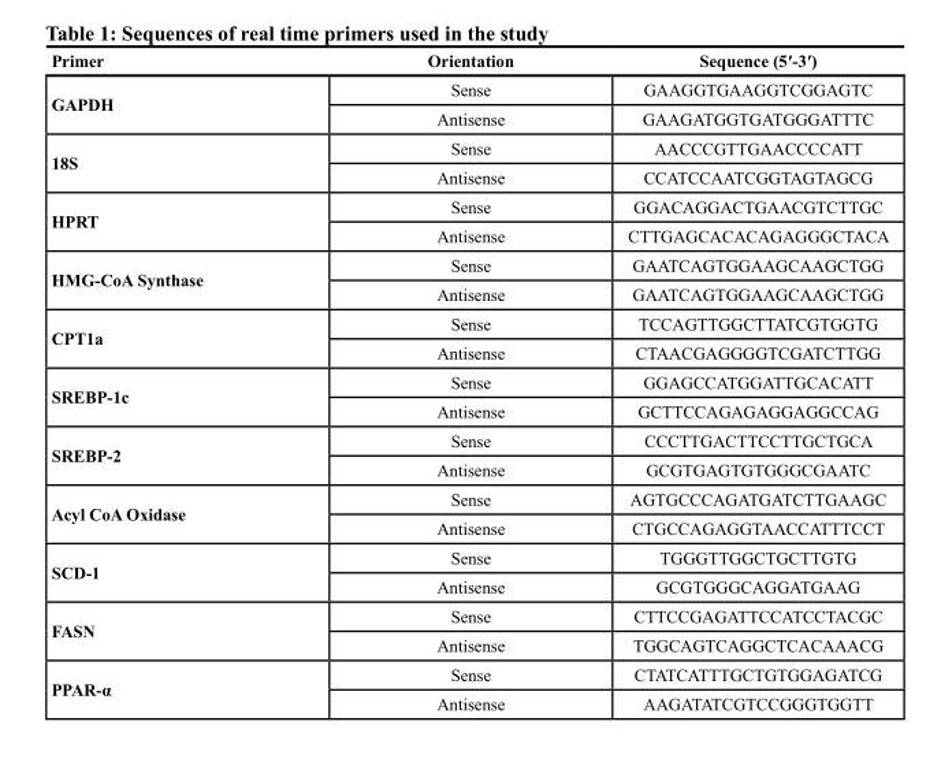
<table><thead><tr><td>Primer</td><td>Orientation</td><td>Sequence (5′-3′)</td></tr></thead><tbody><tr><td rowspan="2">GAPDH</td><td>Sense</td><td>GAAGGTGAAGGTCGGAGTC</td></tr><tr><td>Antisense</td><td>GAAGATGGTGATGGGATTTC</td></tr><tr><td rowspan="2">18S</td><td>Sense</td><td>AACCCGTTGAACCCCATT</td></tr><tr><td>Antisense</td><td>CCATCCAATCGGTAGTAGCG</td></tr><tr><td rowspan="2">HPRT</td><td>Sense</td><td>GGACAGGACTGAACGTCTTGC</td></tr><tr><td>Antisense</td><td>CTTGAGCACACAGAGGGCTACA</td></tr><tr><td rowspan="2">HMG-CoA Synthase</td><td>Sense</td><td>GAATCAGTGGAAGCAAGCTGG</td></tr><tr><td>Antisense</td><td>GAATCAGTGGAAGCAAGCTGG</td></tr><tr><td rowspan="2">CPT1a</td><td>Sense</td><td>TCCAGTTGGCTTATCGTGGTG</td></tr><tr><td>Antisense</td><td>CTAACGAGGGGTCGATCTTGG</td></tr><tr><td rowspan="2">SREBP-1c</td><td>Sense</td><td>GGAGCCATGGATTGCACATT</td></tr><tr><td>Antisense</td><td>GCTTCCAGAGAGGAGGCCAG</td></tr><tr><td rowspan="2">SREBP-2</td><td>Sense</td><td>CCCTTGACTTCCTTGCTGCA</td></tr><tr><td>Antisense</td><td>GCGTGAGTGTGGGCGAATC</td></tr><tr><td rowspan="2">Acyl CoA Oxidase</td><td>Sense</td><td>AGTGCCCAGATGATCTTGAAGC</td></tr><tr><td>Antisense</td><td>CTGCCAGAGGTAACCATTTCCT</td></tr><tr><td rowspan="2">SCD-1</td><td>Sense</td><td>TGGGTTGGCTGCTTGTG</td></tr><tr><td>Antisense</td><td>GCGTGGGCAGGATGAAG</td></tr><tr><td rowspan="2">FASN</td><td>Sense</td><td>CTTCCGAGATTCCATCCTACGC</td></tr><tr><td>Antisense</td><td>TGGCAGTCAGGCTCACAAACG</td></tr><tr><td rowspan="2">PPAR-α</td><td>Sense</td><td>CTATCATTTGCTGTGGAGATCG</td></tr><tr><td>Antisense</td><td>AAGATATCGTCCGGGTGGTT</td></tr></tbody></table>